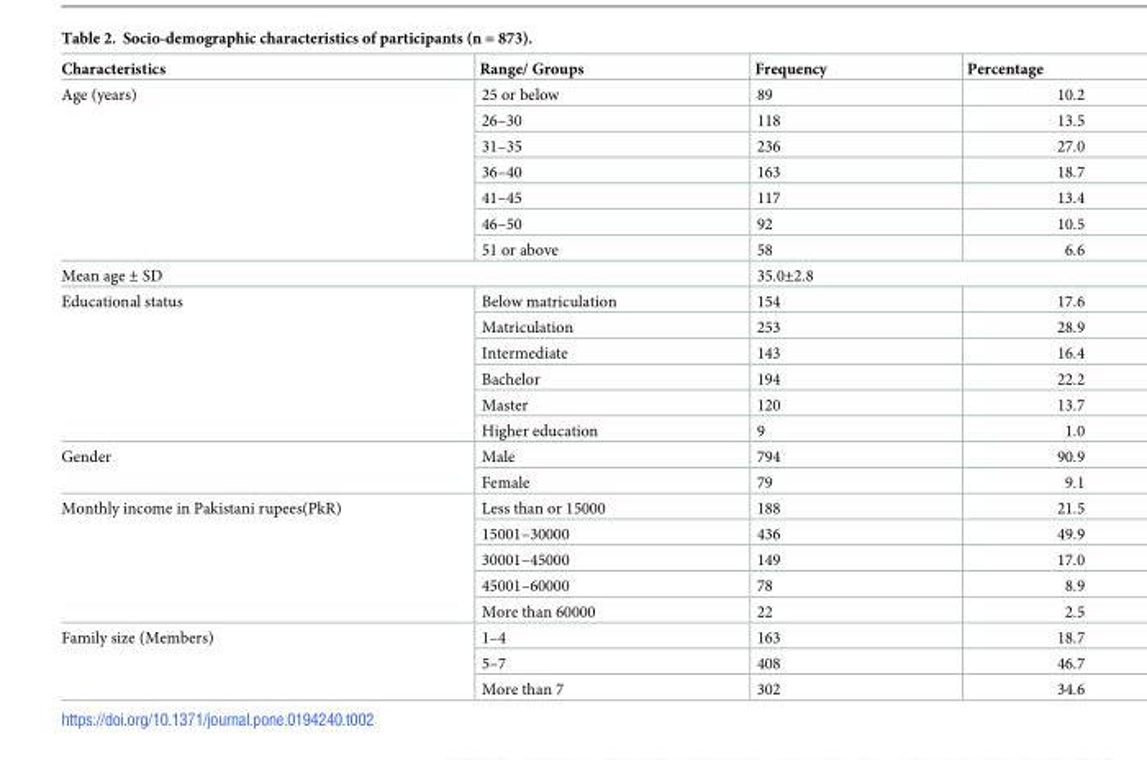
<table><thead><tr><td>Characteristics</td><td>Range/ Groups</td><td>Frequency</td><td>Percentage</td></tr></thead><tbody><tr><td rowspan="7">Age (years)</td><td>25 or below</td><td>89</td><td>10.2</td></tr><tr><td>26–30</td><td>118</td><td>13.5</td></tr><tr><td>31–35</td><td>236</td><td>27.0</td></tr><tr><td>36–40</td><td>163</td><td>18.7</td></tr><tr><td>41–45</td><td>117</td><td>13.4</td></tr><tr><td>46–50</td><td>92</td><td>10.5</td></tr><tr><td>51 or above</td><td>58</td><td>6.6</td></tr><tr><td colspan="2">Mean age ± SD</td><td colspan="2">35.0±2.8</td></tr><tr><td rowspan="6">Educational status</td><td>Below matriculation</td><td>154</td><td>17.6</td></tr><tr><td>Matriculation</td><td>253</td><td>28.9</td></tr><tr><td>Intermediate</td><td>143</td><td>16.4</td></tr><tr><td>Bachelor</td><td>194</td><td>22.2</td></tr><tr><td>Master</td><td>120</td><td>13.7</td></tr><tr><td>Higher education</td><td>9</td><td>1.0</td></tr><tr><td rowspan="2">Gender</td><td>Male</td><td>794</td><td>90.9</td></tr><tr><td>Female</td><td>79</td><td>9.1</td></tr><tr><td rowspan="5">Monthly income in Pakistani rupees(PkR)</td><td>Less than or 15000</td><td>188</td><td>21.5</td></tr><tr><td>15001–30000</td><td>436</td><td>49.9</td></tr><tr><td>30001–45000</td><td>149</td><td>17.0</td></tr><tr><td>45001–60000</td><td>78</td><td>8.9</td></tr><tr><td>More than 60000</td><td>22</td><td>2.5</td></tr><tr><td rowspan="3">Family size (Members)</td><td>1–4</td><td>163</td><td>18.7</td></tr><tr><td>5–7</td><td>408</td><td>46.7</td></tr><tr><td>More than 7</td><td>302</td><td>34.6</td></tr></tbody></table>